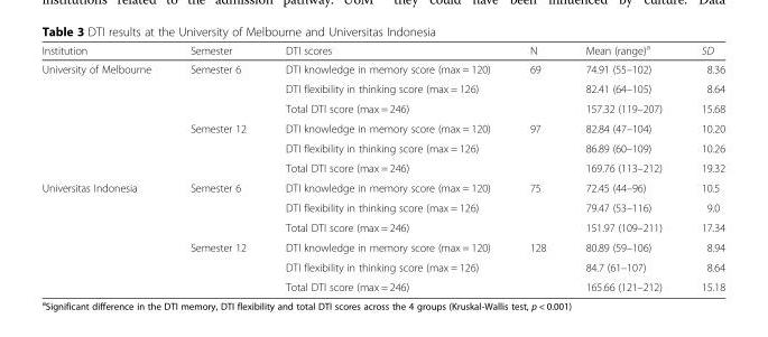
<table><thead><tr><td>Institution</td><td>Semester</td><td>DTI scores</td><td>N</td><td>Mean (range)<sup>a</sup></td><td>SD</td></tr></thead><tbody><tr><td rowspan="6">University of Melbourne</td><td rowspan="3">Semester 6</td><td>DTI knowledge in memory score (max = 120)</td><td rowspan="3">69</td><td>74.91 (55–102)</td><td>8.36</td></tr><tr><td>DTI flexibility in thinking score (max = 126)</td><td>82.41 (64–105)</td><td>8.64</td></tr><tr><td>Total DTI score (max = 246)</td><td>157.32 (119–207)</td><td>15.68</td></tr><tr><td rowspan="3">Semester 12</td><td>DTI knowledge in memory score (max = 120)</td><td rowspan="3">97</td><td>82.84 (47–104)</td><td>10.20</td></tr><tr><td>DTI flexibility in thinking score (max = 126)</td><td>86.89 (60–109)</td><td>10.26</td></tr><tr><td>Total DTI score (max = 246)</td><td>169.76 (113–212)</td><td>19.32</td></tr><tr><td rowspan="6">Universitas Indonesia</td><td rowspan="3">Semester 6</td><td>DTI knowledge in memory score (max = 120)</td><td rowspan="3">75</td><td>72.45 (44–96)</td><td>10.5</td></tr><tr><td>DTI flexibility in thinking score (max = 126)</td><td>79.47 (53–116)</td><td>9.0</td></tr><tr><td>Total DTI score (max = 246)</td><td>151.97 (109–211)</td><td>17.34</td></tr><tr><td rowspan="3">Semester 12</td><td>DTI knowledge in memory score (max = 120)</td><td rowspan="3">128</td><td>80.89 (59–106)</td><td>8.94</td></tr><tr><td>DTI flexibility in thinking score (max = 126)</td><td>84.7 (61–107)</td><td>8.64</td></tr><tr><td>Total DTI score (max = 246)</td><td>165.66 (121–212)</td><td>15.18</td></tr></tbody></table>